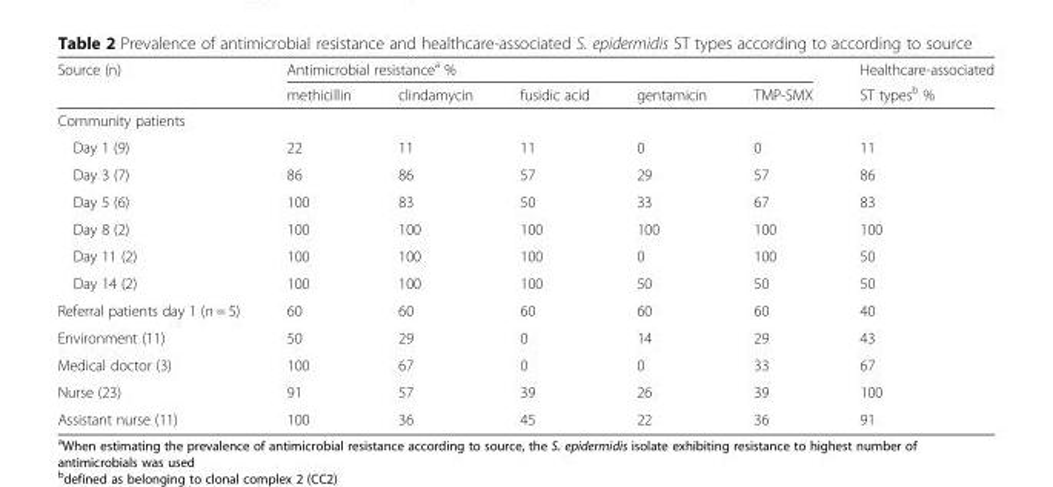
<table><thead><tr><td rowspan="2">Source (n)</td><td colspan="5">Antimicrobial resistance<sup>a</sup> %</td><td rowspan="2">Healthcare-associated ST types<sup>b</sup> %</td></tr><tr><td>methicillin</td><td>clindamycin</td><td>fusidic acid</td><td>gentamicin</td><td>TMP-SMX</td></tr></thead><tbody><tr><td colspan="7">Community patients</td></tr><tr><td>Day 1 (9)</td><td>22</td><td>11</td><td>11</td><td>0</td><td>0</td><td>11</td></tr><tr><td>Day 3 (7)</td><td>86</td><td>86</td><td>57</td><td>29</td><td>57</td><td>86</td></tr><tr><td>Day 5 (6)</td><td>100</td><td>83</td><td>50</td><td>33</td><td>67</td><td>83</td></tr><tr><td>Day 8 (2)</td><td>100</td><td>100</td><td>100</td><td>100</td><td>100</td><td>100</td></tr><tr><td>Day 11 (2)</td><td>100</td><td>100</td><td>100</td><td>0</td><td>100</td><td>50</td></tr><tr><td>Day 14 (2)</td><td>100</td><td>100</td><td>100</td><td>50</td><td>50</td><td>50</td></tr><tr><td>Referral patients day 1 (n = 5)</td><td>60</td><td>60</td><td>60</td><td>60</td><td>60</td><td>40</td></tr><tr><td>Environment (11)</td><td>50</td><td>29</td><td>0</td><td>14</td><td>29</td><td>43</td></tr><tr><td>Medical doctor (3)</td><td>100</td><td>67</td><td>0</td><td>0</td><td>33</td><td>67</td></tr><tr><td>Nurse (23)</td><td>91</td><td>57</td><td>39</td><td>26</td><td>39</td><td>100</td></tr><tr><td>Assistant nurse (11)</td><td>100</td><td>36</td><td>45</td><td>22</td><td>36</td><td>91</td></tr></tbody></table>